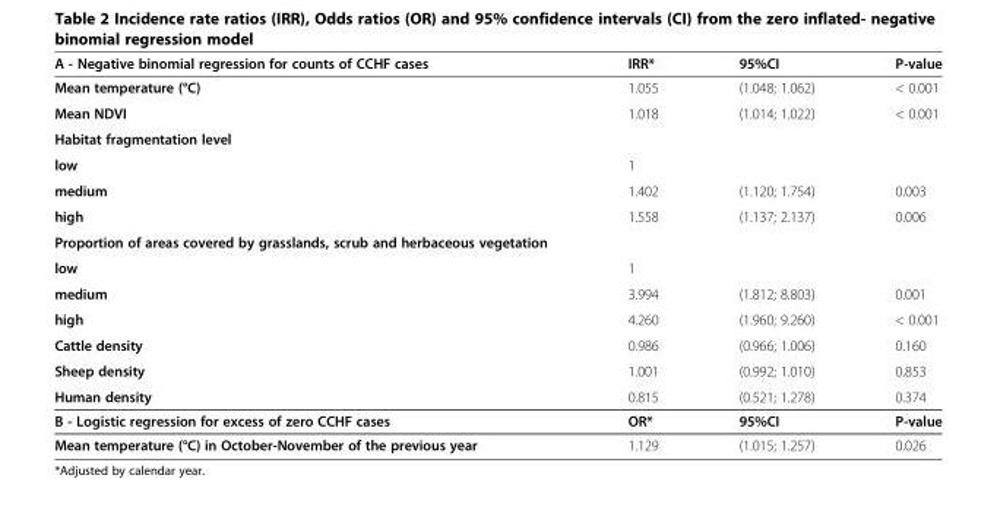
<table><thead><tr><td>A - Negative binomial regression for counts of CCHF cases</td><td>IRR*</td><td>95%CI</td><td>P-value</td></tr></thead><tbody><tr><td>Mean temperature (°C)</td><td>1.055</td><td>(1.048; 1.062)</td><td>&lt; 0.001</td></tr><tr><td>Mean NDVI</td><td>1.018</td><td>(1.014; 1.022)</td><td>&lt; 0.001</td></tr><tr><td colspan="4">Habitat fragmentation level</td></tr><tr><td>low</td><td>1</td><td></td><td></td></tr><tr><td>medium</td><td>1.402</td><td>(1.120; 1.754)</td><td>0.003</td></tr><tr><td>high</td><td>1.558</td><td>(1.137; 2.137)</td><td>0.006</td></tr><tr><td colspan="4">Proportion of areas covered by grasslands, scrub and herbaceous vegetation</td></tr><tr><td>low</td><td>1</td><td></td><td></td></tr><tr><td>medium</td><td>3.994</td><td>(1.812; 8.803)</td><td>0.001</td></tr><tr><td>high</td><td>4.260</td><td>(1.960; 9.260)</td><td>&lt; 0.001</td></tr><tr><td>Cattle density</td><td>0.986</td><td>(0.966; 1.006)</td><td>0.160</td></tr><tr><td>Sheep density</td><td>1.001</td><td>(0.992; 1.010)</td><td>0.853</td></tr><tr><td>Human density</td><td>0.815</td><td>(0.521; 1.278)</td><td>0.374</td></tr><tr><td>B - Logistic regression for excess of zero CCHF cases</td><td>OR*</td><td>95%CI</td><td>P-value</td></tr><tr><td>Mean temperature (°C) in October-November of the previous year</td><td>1.129</td><td>(1.015; 1.257)</td><td>0.026</td></tr></tbody></table>